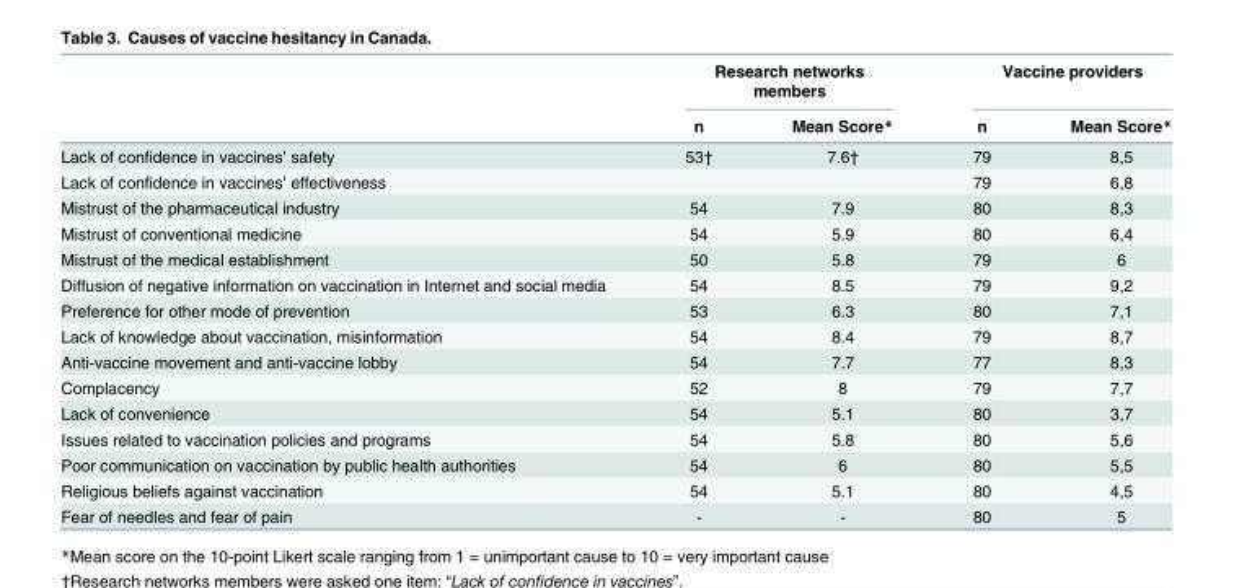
<table><thead><tr><td rowspan="2"></td><td colspan="2">Research networks members</td><td colspan="2">Vaccine providers</td></tr><tr><td>n</td><td>Mean Score*</td><td>n</td><td>Mean Score*</td></tr></thead><tbody><tr><td>Lack of confidence in vaccines’ safety</td><td>53†</td><td>7.6†</td><td>79</td><td>8,5</td></tr><tr><td>Lack of confidence in vaccines’ effectiveness</td><td></td><td></td><td>79</td><td>6,8</td></tr><tr><td>Mistrust of the pharmaceutical industry</td><td>54</td><td>7.9</td><td>80</td><td>8,3</td></tr><tr><td>Mistrust of conventional medicine</td><td>54</td><td>5.9</td><td>80</td><td>6,4</td></tr><tr><td>Mistrust of the medical establishment</td><td>50</td><td>5.8</td><td>79</td><td>6</td></tr><tr><td>Diffusion of negative information on vaccination in Internet and social media</td><td>54</td><td>8.5</td><td>79</td><td>9,2</td></tr><tr><td>Preference for other mode of prevention</td><td>53</td><td>6.3</td><td>80</td><td>7,1</td></tr><tr><td>Lack of knowledge about vaccination, misinformation</td><td>54</td><td>8.4</td><td>79</td><td>8,7</td></tr><tr><td>Anti-vaccine movement and anti-vaccine lobby</td><td>54</td><td>7.7</td><td>77</td><td>8,3</td></tr><tr><td>Complacency</td><td>52</td><td>8</td><td>79</td><td>7,7</td></tr><tr><td>Lack of convenience</td><td>54</td><td>5.1</td><td>80</td><td>3,7</td></tr><tr><td>Issues related to vaccination policies and programs</td><td>54</td><td>5.8</td><td>80</td><td>5,6</td></tr><tr><td>Poor communication on vaccination by public health authorities</td><td>54</td><td>6</td><td>80</td><td>5,5</td></tr><tr><td>Religious beliefs against vaccination</td><td>54</td><td>5.1</td><td>80</td><td>4,5</td></tr><tr><td>Fear of needles and fear of pain</td><td>-</td><td>-</td><td>80</td><td>5</td></tr></tbody></table>